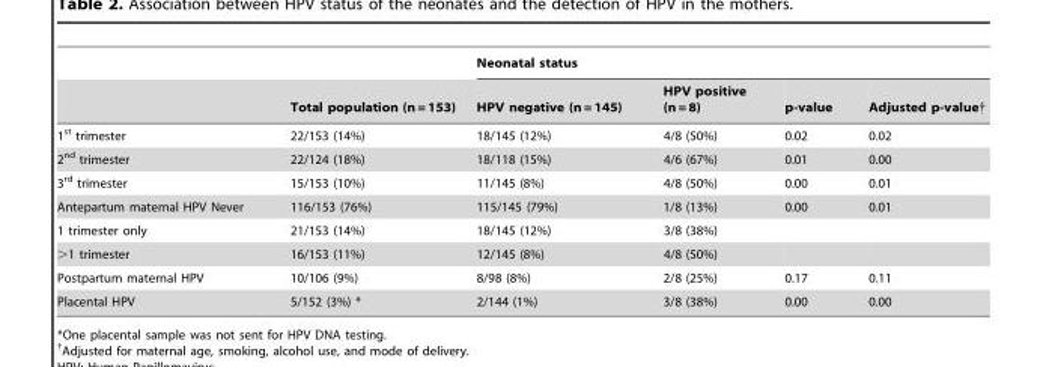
<table><thead><tr><td rowspan="2"></td><td rowspan="2">Total population (n = 153)</td><td colspan="4">Neonatal status</td></tr><tr><td>HPV negative (n = 145)</td><td>HPV positive (n = 8)</td><td>p-value</td><td>Adjusted p-value†</td></tr></thead><tbody><tr><td>1<sup>st</sup> trimester</td><td>22/153 (14%)</td><td>18/145 (12%)</td><td>4/8 (50%)</td><td>0.02</td><td>0.02</td></tr><tr><td>2<sup>nd</sup> trimester</td><td>22/124 (18%)</td><td>18/118 (15%)</td><td>4/6 (67%)</td><td>0.01</td><td>0.00</td></tr><tr><td>3<sup>rd</sup> trimester</td><td>15/153 (10%)</td><td>11/145 (8%)</td><td>4/8 (50%)</td><td>0.00</td><td>0.01</td></tr><tr><td>Antepartum maternal HPV Never</td><td>116/153 (76%)</td><td>115/145 (79%)</td><td>1/8 (13%)</td><td>0.00</td><td>0.01</td></tr><tr><td>1 trimester only</td><td>21/153 (14%)</td><td>18/145 (12%)</td><td>3/8 (38%)</td><td></td><td></td></tr><tr><td>&gt;1 trimester</td><td>16/153 (11%)</td><td>12/145 (8%)</td><td>4/8 (50%)</td><td></td><td></td></tr><tr><td>Postpartum maternal HPV</td><td>10/106 (9%)</td><td>8/98 (8%)</td><td>2/8 (25%)</td><td>0.17</td><td>0.11</td></tr><tr><td>Placental HPV</td><td>5/152 (3%) *</td><td>2/144 (1%)</td><td>3/8 (38%)</td><td>0.00</td><td>0.00</td></tr></tbody></table>